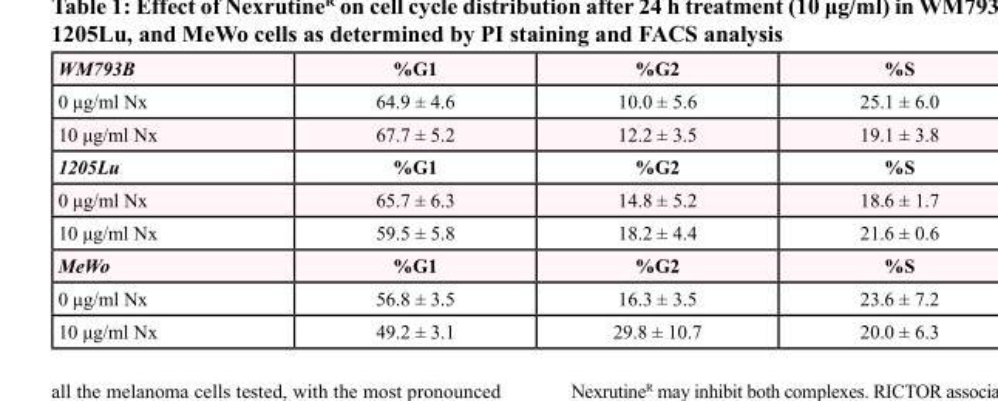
<table><tbody><tr><td>WM793B</td><td>%G1</td><td>%G2</td><td>%S</td></tr><tr><td>0 μg/ml Nx</td><td>64.9 ± 4.6</td><td>10.0 ± 5.6</td><td>25.1 ± 6.0</td></tr><tr><td>10 μg/ml Nx</td><td>67.7 ± 5.2</td><td>12.2 ± 3.5</td><td>19.1 ± 3.8</td></tr><tr><td>1205Lu</td><td>%G1</td><td>%G2</td><td>%S</td></tr><tr><td>0 μg/ml Nx</td><td>65.7 ± 6.3</td><td>14.8 ± 5.2</td><td>18.6 ± 1.7</td></tr><tr><td>10 μg/ml Nx</td><td>59.5 ± 5.8</td><td>18.2 ± 4.4</td><td>21.6 ± 0.6</td></tr><tr><td>MeWo</td><td>%G1</td><td>%G2</td><td>%S</td></tr><tr><td>0 μg/ml Nx</td><td>56.8 ± 3.5</td><td>16.3 ± 3.5</td><td>23.6 ± 7.2</td></tr><tr><td>10 μg/ml Nx</td><td>49.2 ± 3.1</td><td>29.8 ± 10.7</td><td>20.0 ± 6.3</td></tr></tbody></table>